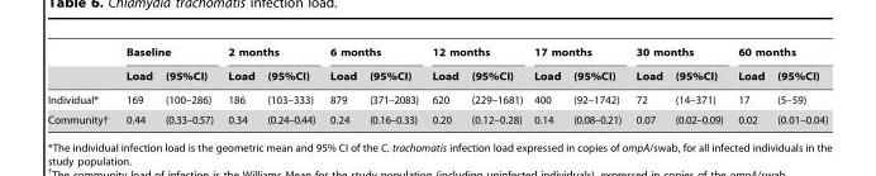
<table><thead><tr><td rowspan="2"></td><td colspan="2">Baseline</td><td colspan="2">2 months</td><td colspan="2">6 months</td><td colspan="2">12 months</td><td colspan="2">17 months</td><td colspan="2">30 months</td><td colspan="2">60 months</td></tr><tr><td>Load</td><td>(95%CI)</td><td>Load</td><td>(95%CI)</td><td>Load</td><td>(95%CI)</td><td>Load</td><td>(95%CI)</td><td>Load</td><td>(95%CI)</td><td>Load</td><td>(95%CI)</td><td>Load</td><td>(95%CI)</td></tr></thead><tbody><tr><td>Individual*</td><td>169</td><td>(100–286)</td><td>186</td><td>(103–333)</td><td>879</td><td>(371–2083)</td><td>620</td><td>(229–1681)</td><td>400</td><td>(92–1742)</td><td>72</td><td>(14–371)</td><td>17</td><td>(5–59)</td></tr><tr><td>Community†</td><td>0.44</td><td>(0.33–0.57)</td><td>0.34</td><td>(0.24–0.44)</td><td>0.24</td><td>(0.16–0.33)</td><td>0.20</td><td>(0.12–0.28)</td><td>0.14</td><td>(0.08–0.21)</td><td>0.07</td><td>(0.02–0.09)</td><td>0.02</td><td>(0.01–0.04)</td></tr></tbody></table>